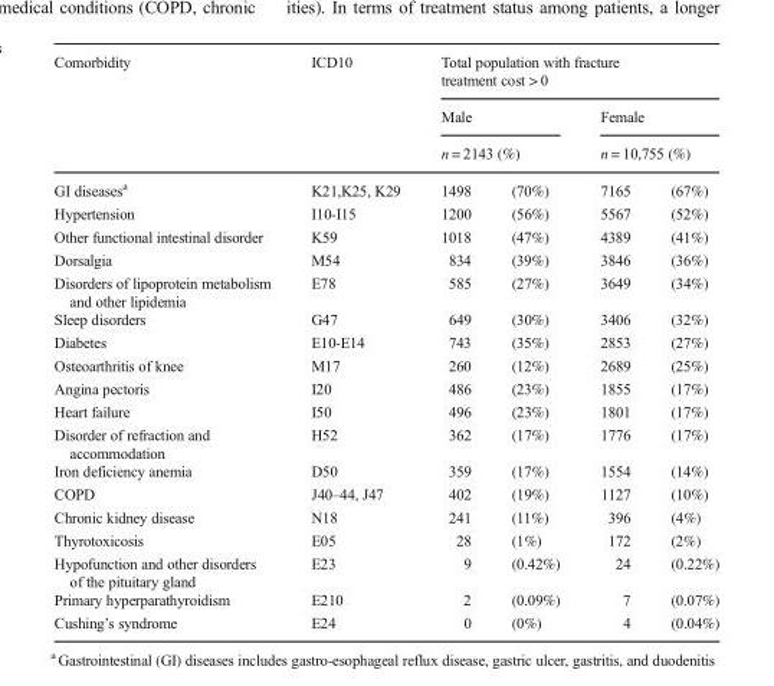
<table><thead><tr><td rowspan="4">Comorbidity GI diseases<sup>a</sup></td><td rowspan="4">ICD10 K21,K25, K29</td><td colspan="4">Total population with fracture treatment cost &gt; 0</td></tr><tr><td rowspan="2" colspan="2">Male n = 2143 (%)</td><td rowspan="2" colspan="2">Female n = 10,755 (%)</td></tr><tr></tr><tr><td>1498</td><td>(70%)</td><td>7165</td><td>(67%)</td></tr></thead><tbody><tr><td>Hypertension</td><td>I10-I15</td><td>1200</td><td>(56%)</td><td>5567</td><td>(52%)</td></tr><tr><td>Other functional intestinal disorder</td><td>K59</td><td>1018</td><td>(47%)</td><td>4389</td><td>(41%)</td></tr><tr><td>Dorsalgia</td><td>M54</td><td>834</td><td>(39%)</td><td>3846</td><td>(36%)</td></tr><tr><td>Disorders of lipoprotein metabolism and other lipidemia</td><td>E78</td><td>585</td><td>(27%)</td><td>3649</td><td>(34%)</td></tr><tr><td>Sleep disorders</td><td>G47</td><td>649</td><td>(30%)</td><td>3406</td><td>(32%)</td></tr><tr><td>Diabetes</td><td>E10-E14</td><td>743</td><td>(35%)</td><td>2853</td><td>(27%)</td></tr><tr><td>Osteoarthritis of knee</td><td>M17</td><td>260</td><td>(12%)</td><td>2689</td><td>(25%)</td></tr><tr><td>Angina pectoris</td><td>I20</td><td>486</td><td>(23%)</td><td>1855</td><td>(17%)</td></tr><tr><td>Heart failure</td><td>I50</td><td>496</td><td>(23%)</td><td>1801</td><td>(17%)</td></tr><tr><td>Disorder of refraction and accommodation</td><td>H52</td><td>362</td><td>(17%)</td><td>1776</td><td>(17%)</td></tr><tr><td>Iron deficiency anemia</td><td>D50</td><td>359</td><td>(17%)</td><td>1554</td><td>(14%)</td></tr><tr><td>COPD</td><td>J40–44, J47</td><td>402</td><td>(19%)</td><td>1127</td><td>(10%)</td></tr><tr><td>Chronic kidney disease</td><td>N18</td><td>241</td><td>(11%)</td><td>396</td><td>(4%)</td></tr><tr><td>Thyrotoxicosis</td><td>E05</td><td>28</td><td>(1%)</td><td>172</td><td>(2%)</td></tr><tr><td>Hypofunction and other disorders of the pituitary gland</td><td>E23</td><td>9</td><td>(0.42%)</td><td>24</td><td>(0.22%)</td></tr><tr><td>Primary hyperparathyroidism</td><td>E210</td><td>2</td><td>(0.09%)</td><td>7</td><td>(0.07%)</td></tr><tr><td>Cushing’s syndrome</td><td>E24</td><td>0</td><td>(0%)</td><td>4</td><td>(0.04%)</td></tr></tbody></table>